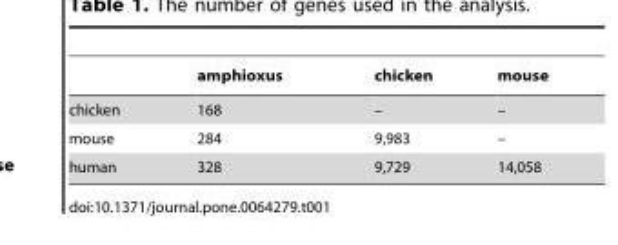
<table><thead><tr><td></td><td>amphioxus</td><td>chicken</td><td>mouse</td></tr></thead><tbody><tr><td>chicken</td><td>168</td><td>–</td><td>–</td></tr><tr><td>mouse</td><td>284</td><td>9,983</td><td>–</td></tr><tr><td>human</td><td>328</td><td>9,729</td><td>14,058</td></tr></tbody></table>